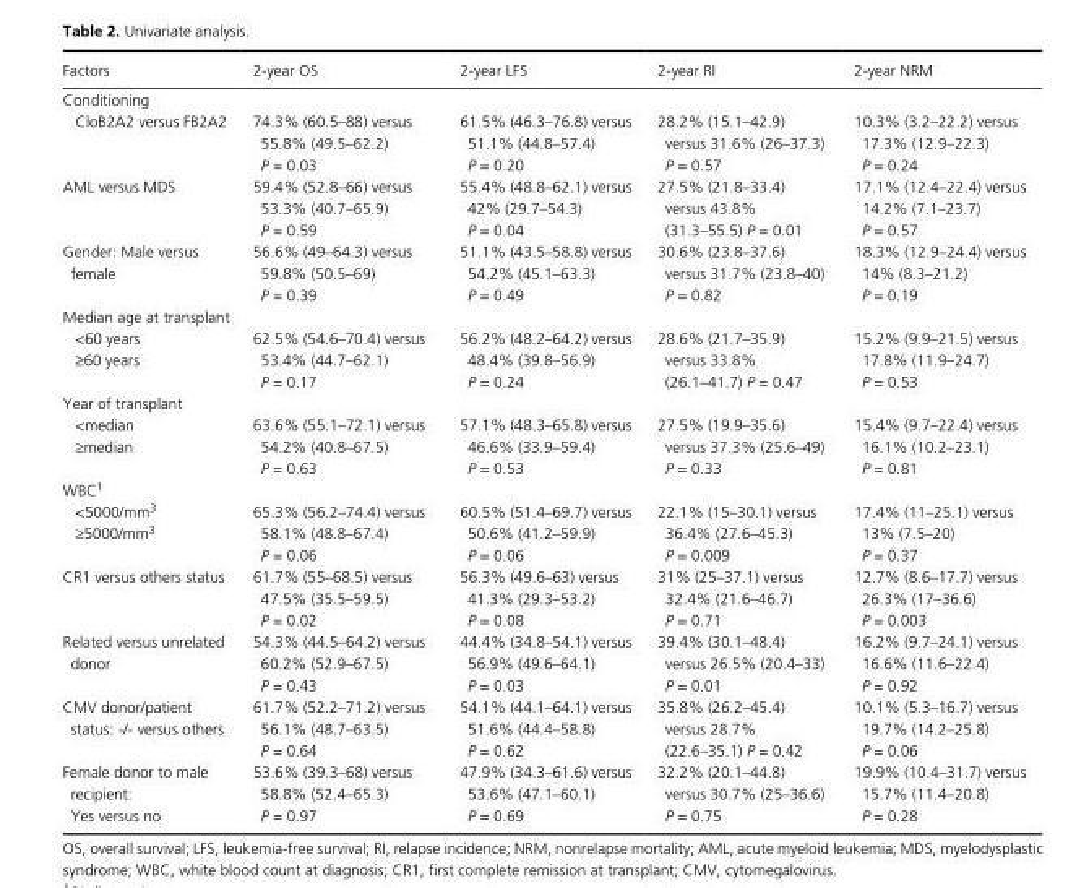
<table><thead><tr><td>Factors</td><td>2- year OS</td><td>2- year LFS</td><td>2- year RI</td><td>2- year NRM</td></tr></thead><tbody><tr><td colspan="5">Conditioning</td></tr><tr><td>CloB2A2 versus FB2A2</td><td>74.3% (60.5–88) versus 55.8% (49.5–62.2) P = 0.03</td><td>61.5% (46.3–76.8) versus 51.1% (44.8–57.4) P = 0.20</td><td>28.2% (15.1–42.9) versus 31.6% (26–37.3) P = 0.57</td><td>10.3% (3.2–22.2) versus 17.3% (12.9–22.3) P = 0.24</td></tr><tr><td>AML versus MDS</td><td>59.4% (52.8–66) versus 53.3% (40.7–65.9) P = 0.59</td><td>55.4% (48.8–62.1) versus 42% (29.7–54.3) P = 0.04</td><td>27.5% (21.8–33.4) versus 43.8% (31.3–55.5) P = 0.01</td><td>17.1% (12.4–22.4) versus 14.2% (7.1–23.7) P = 0.57</td></tr><tr><td>Gender: Male versus female</td><td>56.6% (49–64.3) versus 59.8% (50.5–69) P = 0.39</td><td>51.1% (43.5–58.8) versus 54.2% (45.1–63.3) P = 0.49</td><td>30.6% (23.8–37.6) versus 31.7% (23.8–40) P = 0.82</td><td>18.3% (12.9–24.4) versus 14% (8.3–21.2) P = 0.19</td></tr><tr><td colspan="5">Median age at transplant</td></tr><tr><td>&lt;60 years ≥60 years</td><td>62.5% (54.6–70.4) versus 53.4% (44.7–62.1) P = 0.17</td><td>56.2% (48.2–64.2) versus 48.4% (39.8–56.9) P = 0.24</td><td>28.6% (21.7–35.9) versus 33.8% (26.1–41.7) P = 0.47</td><td>15.2% (9.9–21.5) versus 17.8% (11.9–24.7) P = 0.53</td></tr><tr><td colspan="5">Year of transplant</td></tr><tr><td>&lt;median ≥median</td><td>63.6% (55.1–72.1) versus 54.2% (40.8–67.5) P = 0.63</td><td>57.1% (48.3–65.8) versus 46.6% (33.9–59.4) P = 0.53</td><td>27.5% (19.9–35.6) versus 37.3% (25.6–49) P = 0.33</td><td>15.4% (9.7–22.4) versus 16.1% (10.2–23.1) P = 0.81</td></tr><tr><td colspan="5">WBC1</td></tr><tr><td>&lt;5000/mm3 ≥5000/mm3</td><td>65.3% (56.2–74.4) versus 58.1% (48.8–67.4) P = 0.06</td><td>60.5% (51.4–69.7) versus 50.6% (41.2–59.9) P = 0.06</td><td>22.1% (15–30.1) versus 36.4% (27.6–45.3) P = 0.009</td><td>17.4% (11–25.1) versus 13% (7.5–20) P = 0.37</td></tr><tr><td>CR1 versus others status</td><td>61.7% (55–68.5) versus 47.5% (35.5–59.5) P = 0.02</td><td>56.3% (49.6–63) versus 41.3% (29.3–53.2) P = 0.08</td><td>31% (25–37.1) versus 32.4% (21.6–46.7) P = 0.71</td><td>12.7% (8.6–17.7) versus 26.3% (17–36.6) P = 0.003</td></tr><tr><td>Related versus unrelated donor</td><td>54.3% (44.5–64.2) versus 60.2% (52.9–67.5) P = 0.43</td><td>44.4% (34.8–54.1) versus 56.9% (49.6–64.1) P = 0.03</td><td>39.4% (30.1–48.4) versus 26.5% (20.4–33) P = 0.01</td><td>16.2% (9.7–24.1) versus 16.6% (11.6–22.4) P = 0.92</td></tr><tr><td>CMV donor/patient status: - /- versus others</td><td>61.7% (52.2–71.2) versus 56.1% (48.7–63.5) P = 0.64</td><td>54.1% (44.1–64.1) versus 51.6% (44.4–58.8) P = 0.62</td><td>35.8% (26.2–45.4) versus 28.7% (22.6–35.1) P = 0.42</td><td>10.1% (5.3–16.7) versus 19.7% (14.2–25.8) P = 0.06</td></tr><tr><td>Female donor to male recipient: Yes versus no</td><td>53.6% (39.3–68) versus 58.8% (52.4–65.3) P = 0.97</td><td>47.9% (34.3–61.6) versus 53.6% (47.1–60.1) P = 0.69</td><td>32.2% (20.1–44.8) versus 30.7% (25–36.6) P = 0.75</td><td>19.9% (10.4–31.7) versus 15.7% (11.4–20.8) P = 0.28</td></tr></tbody></table>